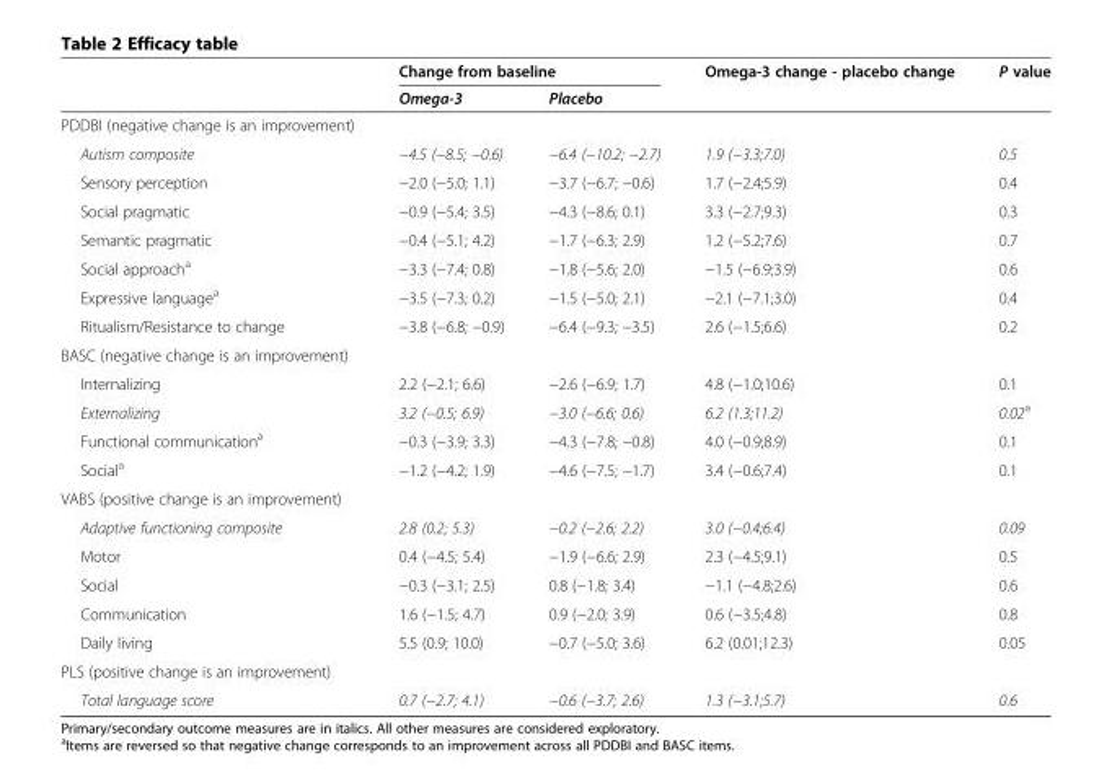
<table><thead><tr><td rowspan="2"></td><td colspan="2">Change from baseline</td><td rowspan="2">Omega-3 change - placebo change</td><td rowspan="2">P value</td></tr><tr><td>Omega-3</td><td>Placebo</td></tr></thead><tbody><tr><td colspan="5">PDDBI (negative change is an improvement)</td></tr><tr><td>Autism composite</td><td>−4.5 (−8.5; −0.6)</td><td>−6.4 (−10.2; −2.7)</td><td>1.9 (−3.3;7.0)</td><td>0.5</td></tr><tr><td>Sensory perception</td><td>−2.0 (−5.0; 1.1)</td><td>−3.7 (−6.7; −0.6)</td><td>1.7 (−2.4;5.9)</td><td>0.4</td></tr><tr><td>Social pragmatic</td><td>−0.9 (−5.4; 3.5)</td><td>−4.3 (−8.6; 0.1)</td><td>3.3 (−2.7;9.3)</td><td>0.3</td></tr><tr><td>Semantic pragmatic</td><td>−0.4 (−5.1; 4.2)</td><td>−1.7 (−6.3; 2.9)</td><td>1.2 (−5.2;7.6)</td><td>0.7</td></tr><tr><td>Social approach<sup>a</sup></td><td>−3.3 (−7.4; 0.8)</td><td>−1.8 (−5.6; 2.0)</td><td>−1.5 (−6.9;3.9)</td><td>0.6</td></tr><tr><td>Expressive language<sup>a</sup></td><td>−3.5 (−7.3; 0.2)</td><td>−1.5 (−5.0; 2.1)</td><td>−2.1 (−7.1;3.0)</td><td>0.4</td></tr><tr><td>Ritualism/Resistance to change</td><td>−3.8 (−6.8; −0.9)</td><td>−6.4 (−9.3; −3.5)</td><td>2.6 (−1.5;6.6)</td><td>0.2</td></tr><tr><td colspan="5">BASC (negative change is an improvement)</td></tr><tr><td>Internalizing</td><td>2.2 (−2.1; 6.6)</td><td>−2.6 (−6.9; 1.7)</td><td>4.8 (−1.0;10.6)</td><td>0.1</td></tr><tr><td>Externalizing</td><td>3.2 (−0.5; 6.9)</td><td>−3.0 (−6.6; 0.6)</td><td>6.2 (1.3;11.2)</td><td>0.02<sup>a</sup></td></tr><tr><td>Functional communication<sup>a</sup></td><td>−0.3 (−3.9; 3.3)</td><td>−4.3 (−7.8; −0.8)</td><td>4.0 (−0.9;8.9)</td><td>0.1</td></tr><tr><td>Social<sup>a</sup></td><td>−1.2 (−4.2; 1.9)</td><td>−4.6 (−7.5; −1.7)</td><td>3.4 (−0.6;7.4)</td><td>0.1</td></tr><tr><td colspan="5">VABS (positive change is an improvement)</td></tr><tr><td>Adaptive functioning composite</td><td>2.8 (0.2; 5.3)</td><td>−0.2 (−2.6; 2.2)</td><td>3.0 (−0.4;6.4)</td><td>0.09</td></tr><tr><td>Motor</td><td>0.4 (−4.5; 5.4)</td><td>−1.9 (−6.6; 2.9)</td><td>2.3 (−4.5;9.1)</td><td>0.5</td></tr><tr><td>Social</td><td>−0.3 (−3.1; 2.5)</td><td>0.8 (−1.8; 3.4)</td><td>−1.1 (−4.8;2.6)</td><td>0.6</td></tr><tr><td>Communication</td><td>1.6 (−1.5; 4.7)</td><td>0.9 (−2.0; 3.9)</td><td>0.6 (−3.5;4.8)</td><td>0.8</td></tr><tr><td>Daily living</td><td>5.5 (0.9; 10.0)</td><td>−0.7 (−5.0; 3.6)</td><td>6.2 (0.01;12.3)</td><td>0.05</td></tr><tr><td colspan="5">PLS (positive change is an improvement)</td></tr><tr><td>Total language score</td><td>0.7 (−2.7; 4.1)</td><td>−0.6 (−3.7; 2.6)</td><td>1.3 (−3.1;5.7)</td><td>0.6</td></tr></tbody></table>